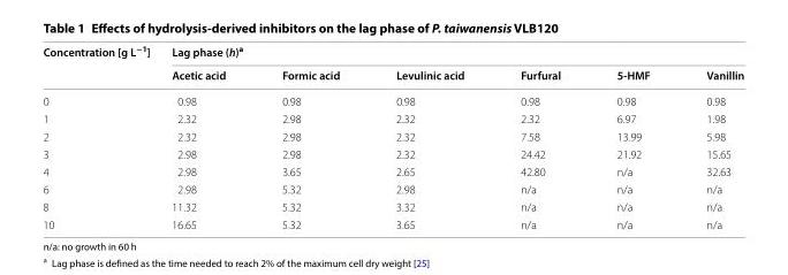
<table><thead><tr><td rowspan="2">Concentration [g L<sup>−1</sup>]</td><td colspan="6">Lag phase (h)<sup>a</sup></td></tr><tr><td>Acetic acid</td><td>Formic acid</td><td>Levulinic acid</td><td>Furfural</td><td>5‑HMF</td><td>Vanillin</td></tr></thead><tbody><tr><td>0</td><td>0.98</td><td>0.98</td><td>0.98</td><td>0.98</td><td>0.98</td><td>0.98</td></tr><tr><td>1</td><td>2.32</td><td>2.98</td><td>2.32</td><td>2.32</td><td>6.97</td><td>1.98</td></tr><tr><td>2</td><td>2.32</td><td>2.98</td><td>2.32</td><td>7.58</td><td>13.99</td><td>5.98</td></tr><tr><td>3</td><td>2.98</td><td>2.98</td><td>2.32</td><td>24.42</td><td>21.92</td><td>15.65</td></tr><tr><td>4</td><td>2.98</td><td>3.65</td><td>2.65</td><td>42.80</td><td>n/a</td><td>32.63</td></tr><tr><td>6</td><td>2.98</td><td>5.32</td><td>2.98</td><td>n/a</td><td>n/a</td><td>n/a</td></tr><tr><td>8</td><td>11.32</td><td>5.32</td><td>3.32</td><td>n/a</td><td>n/a</td><td>n/a</td></tr><tr><td>10</td><td>16.65</td><td>5.32</td><td>3.65</td><td>n/a</td><td>n/a</td><td>n/a</td></tr></tbody></table>